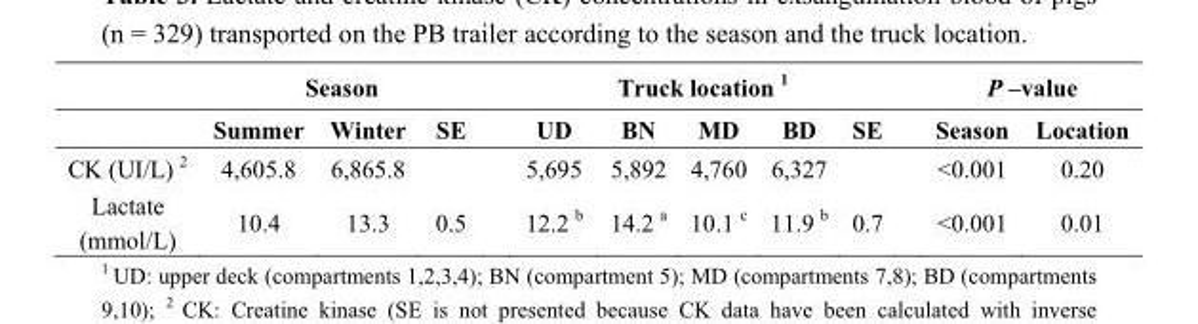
<table><thead><tr><td rowspan="2"></td><td colspan="3">Season</td><td colspan="5">Truck location <sup>1</sup></td><td colspan="2">P –value</td></tr><tr><td>Summer</td><td>Winter</td><td>SE</td><td>UD</td><td>BN</td><td>MD</td><td>BD</td><td>SE</td><td>Season</td><td>Location</td></tr></thead><tbody><tr><td>CK (UI/L) <sup>2</sup></td><td>4,605.8</td><td>6,865.8</td><td></td><td>5,695</td><td>5,892</td><td>4,760</td><td>6,327</td><td></td><td>&lt;0.001</td><td>0.20</td></tr><tr><td>Lactate (mmol/L)</td><td>10.4</td><td>13.3</td><td>0.5</td><td>12.2 <sup>b</sup></td><td>14.2 <sup>a</sup></td><td>10.1 <sup>c</sup></td><td>11.9 <sup>b</sup></td><td>0.7</td><td>&lt;0.001</td><td>0.01</td></tr></tbody></table>